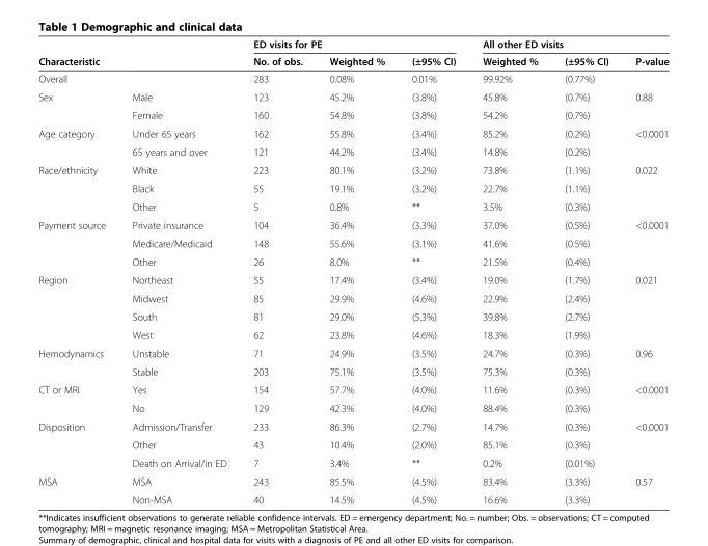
<table><thead><tr><td rowspan="2">Characteristic</td><td rowspan="2"></td><td colspan="3">ED visits for PE</td><td colspan="3">All other ED visits</td></tr><tr><td>No. of obs.</td><td>Weighted %</td><td>(±95% CI)</td><td>Weighted %</td><td>(±95% CI)</td><td>P-value</td></tr></thead><tbody><tr><td>Overall</td><td></td><td>283</td><td>0.08%</td><td>0.01%</td><td>99.92%</td><td>(0.77%)</td><td></td></tr><tr><td rowspan="2">Sex</td><td>Male</td><td>123</td><td>45.2%</td><td>(3.8%)</td><td>45.8%</td><td>(0.7%)</td><td>0.88</td></tr><tr><td>Female</td><td>160</td><td>54.8%</td><td>(3.8%)</td><td>54.2%</td><td>(0.7%)</td><td></td></tr><tr><td rowspan="2">Age category</td><td>Under 65 years</td><td>162</td><td>55.8%</td><td>(3.4%)</td><td>85.2%</td><td>(0.2%)</td><td>&lt;0.0001</td></tr><tr><td>65 years and over</td><td>121</td><td>44.2%</td><td>(3.4%)</td><td>14.8%</td><td>(0.2%)</td><td></td></tr><tr><td rowspan="3">Race/ethnicity</td><td>White</td><td>223</td><td>80.1%</td><td>(3.2%)</td><td>73.8%</td><td>(1.1%)</td><td>0.022</td></tr><tr><td>Black</td><td>55</td><td>19.1%</td><td>(3.2%)</td><td>22.7%</td><td>(1.1%)</td><td></td></tr><tr><td>Other</td><td>5</td><td>0.8%</td><td>**</td><td>3.5%</td><td>(0.3%)</td><td></td></tr><tr><td rowspan="3">Payment source</td><td>Private insurance</td><td>104</td><td>36.4%</td><td>(3.3%)</td><td>37.0%</td><td>(0.5%)</td><td>&lt;0.0001</td></tr><tr><td>Medicare/Medicaid</td><td>148</td><td>55.6%</td><td>(3.1%)</td><td>41.6%</td><td>(0.5%)</td><td></td></tr><tr><td>Other</td><td>26</td><td>8.0%</td><td>**</td><td>21.5%</td><td>(0.4%)</td><td></td></tr><tr><td rowspan="4">Region</td><td>Northeast</td><td>55</td><td>17.4%</td><td>(3.4%)</td><td>19.0%</td><td>(1.7%)</td><td>0.021</td></tr><tr><td>Midwest</td><td>85</td><td>29.9%</td><td>(4.6%)</td><td>22.9%</td><td>(2.4%)</td><td></td></tr><tr><td>South</td><td>81</td><td>29.0%</td><td>(5.3%)</td><td>39.8%</td><td>(2.7%)</td><td></td></tr><tr><td>West</td><td>62</td><td>23.8%</td><td>(4.6%)</td><td>18.3%</td><td>(1.9%)</td><td></td></tr><tr><td rowspan="2">Hemodynamics</td><td>Unstable</td><td>71</td><td>24.9%</td><td>(3.5%)</td><td>24.7%</td><td>(0.3%)</td><td>0.96</td></tr><tr><td>Stable</td><td>203</td><td>75.1%</td><td>(3.5%)</td><td>75.3%</td><td>(0.3%)</td><td></td></tr><tr><td rowspan="2">CT or MRI</td><td>Yes</td><td>154</td><td>57.7%</td><td>(4.0%)</td><td>11.6%</td><td>(0.3%)</td><td>&lt;0.0001</td></tr><tr><td>No</td><td>129</td><td>42.3%</td><td>(4.0%)</td><td>88.4%</td><td>(0.3%)</td><td></td></tr><tr><td rowspan="3">Disposition</td><td>Admission/Transfer</td><td>233</td><td>86.3%</td><td>(2.7%)</td><td>14.7%</td><td>(0.3%)</td><td>&lt;0.0001</td></tr><tr><td>Other</td><td>43</td><td>10.4%</td><td>(2.0%)</td><td>85.1%</td><td>(0.3%)</td><td></td></tr><tr><td>Death on Arrival/in ED</td><td>7</td><td>3.4%</td><td>**</td><td>0.2%</td><td>(0.01%)</td><td></td></tr><tr><td rowspan="2">MSA</td><td>MSA</td><td>243</td><td>85.5%</td><td>(4.5%)</td><td>83.4%</td><td>(3.3%)</td><td>0.57</td></tr><tr><td>Non-MSA</td><td>40</td><td>14.5%</td><td>(4.5%)</td><td>16.6%</td><td>(3.3%)</td><td></td></tr></tbody></table>